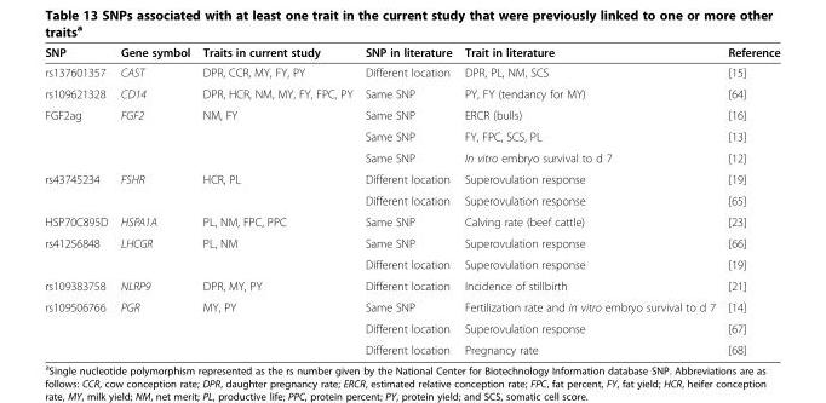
<table><thead><tr><td>SNP</td><td>Gene symbol</td><td>Traits in current study</td><td>SNP in literature</td><td>Trait in literature</td><td>Reference</td></tr></thead><tbody><tr><td>rs137601357</td><td>CAST</td><td>DPR, CCR, MY, FY, PY</td><td>Different location</td><td>DPR, PL, NM, SCS</td><td>[15]</td></tr><tr><td>rs109621328</td><td>CD14</td><td>DPR, HCR, NM, MY, FY, FPC, PY</td><td>Same SNP</td><td>PY, FY (tendancy for MY)</td><td>[64]</td></tr><tr><td rowspan="3">FGF2ag</td><td>FGF2</td><td>NM, FY</td><td>Same SNP</td><td>ERCR (bulls)</td><td>[16]</td></tr><tr><td></td><td></td><td>Same SNP</td><td>FY, FPC, SCS, PL</td><td>[13]</td></tr><tr><td></td><td></td><td>Same SNP</td><td>In vitro embryo survival to d 7</td><td>[12]</td></tr><tr><td rowspan="2">rs43745234</td><td>FSHR</td><td>HCR, PL</td><td>Different location</td><td>Superovulation response</td><td>[19]</td></tr><tr><td></td><td></td><td>Different location</td><td>Superovulation response</td><td>[65]</td></tr><tr><td>HSP70C895D</td><td>HSPA1A</td><td>PL, NM, FPC, PPC</td><td>Same SNP</td><td>Calving rate (beef cattle)</td><td>[23]</td></tr><tr><td rowspan="2">rs41256848</td><td>LHCGR</td><td>PL, NM</td><td>Same SNP</td><td>Superovulation response</td><td>[66]</td></tr><tr><td></td><td></td><td>Different location</td><td>Superovulation response</td><td>[19]</td></tr><tr><td>rs109383758</td><td>NLRP9</td><td>DPR, MY, PY</td><td>Different location</td><td>Incidence of stillbirth</td><td>[21]</td></tr><tr><td rowspan="3">rs109506766</td><td>PGR</td><td>MY, PY</td><td>Same SNP</td><td>Fertilization rate and in vitro embryo survival to d 7</td><td>[14]</td></tr><tr><td></td><td></td><td>Different location</td><td>Superovulation response</td><td>[67]</td></tr><tr><td></td><td></td><td>Different location</td><td>Pregnancy rate</td><td>[68]</td></tr></tbody></table>